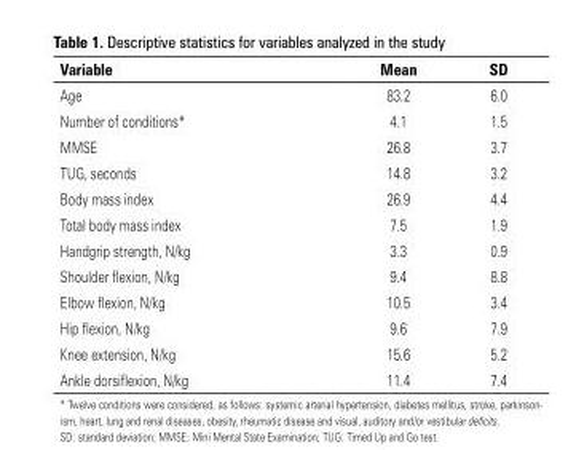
<table><thead><tr><td>Variable</td><td>Mean</td><td>SD</td></tr></thead><tbody><tr><td>Age</td><td>83.2</td><td>6.0</td></tr><tr><td>Number of conditions*</td><td>4.1</td><td>1.5</td></tr><tr><td>MMSE</td><td>26.8</td><td>3.7</td></tr><tr><td>TUG, seconds</td><td>14.8</td><td>3.2</td></tr><tr><td>Body mass index</td><td>26.9</td><td>4.4</td></tr><tr><td>Total body mass index</td><td>7.5</td><td>1.9</td></tr><tr><td>Handgrip strength, N/kg</td><td>3.3</td><td>0.9</td></tr><tr><td>Shoulder flexion, N/kg</td><td>9.4</td><td>8.8</td></tr><tr><td>Elbow flexion, N/kg</td><td>10.5</td><td>3.4</td></tr><tr><td>Hip flexion, N/kg</td><td>9.6</td><td>7.9</td></tr><tr><td>Knee extension, N/kg</td><td>15.6</td><td>5.2</td></tr><tr><td>Ankle dorsiflexion, N/kg</td><td>11.4</td><td>7.4</td></tr></tbody></table>